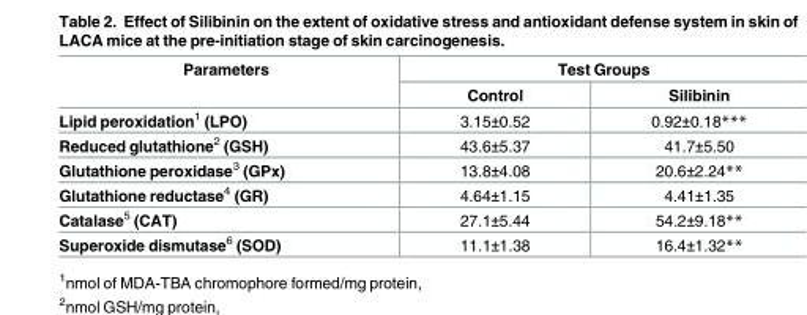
<table><thead><tr><td rowspan="2">Parameters</td><td colspan="2">Test Groups</td></tr><tr><td>Control</td><td>Silibinin</td></tr></thead><tbody><tr><td>Lipid peroxidation<sup>1</sup> (LPO)</td><td>3.15±0.52</td><td>0.92±0.18***</td></tr><tr><td>Reduced glutathione<sup>2</sup> (GSH)</td><td>43.6±5.37</td><td>41.7±5.50</td></tr><tr><td>Glutathione peroxidase<sup>3</sup> (GPx)</td><td>13.8±4.08</td><td>20.6±2.24**</td></tr><tr><td>Glutathione reductase<sup>4</sup> (GR)</td><td>4.64±1.15</td><td>4.41±1.35</td></tr><tr><td>Catalase<sup>5</sup> (CAT)</td><td>27.1±5.44</td><td>54.2±9.18**</td></tr><tr><td>Superoxide dismutase<sup>6</sup> (SOD)</td><td>11.1±1.38</td><td>16.4±1.32**</td></tr></tbody></table>